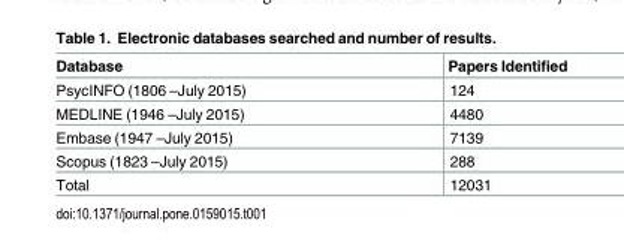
<table><thead><tr><td>Database</td><td>Papers Identified</td></tr></thead><tbody><tr><td>PsycINFO (1806 –July 2015)</td><td>124</td></tr><tr><td>MEDLINE (1946 –July 2015)</td><td>4480</td></tr><tr><td>Embase (1947 –July 2015)</td><td>7139</td></tr><tr><td>Scopus (1823 –July 2015)</td><td>288</td></tr><tr><td>Total</td><td>12031</td></tr></tbody></table>